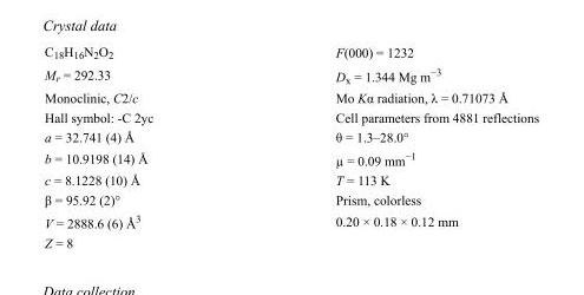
<table><tbody><tr><td>C<sub>18</sub>H<sub>16</sub>N<sub>2</sub>O<sub>2</sub></td><td>F(000) = 1232</td></tr><tr><td>M<sub>r</sub> = 292.33</td><td>D<sub>x</sub> = 1.344 Mg m<sup>−3</sup></td></tr><tr><td>Monoclinic, C2/c</td><td>Mo Kα radiation, λ = 0.71073 Å</td></tr><tr><td>Hall symbol: -C 2yc</td><td>Cell parameters from 4881 reflections</td></tr><tr><td>a = 32.741 (4) Å</td><td>θ = 1.3–28.0°</td></tr><tr><td>b = 10.9198 (14) Å</td><td>µ = 0.09 mm<sup>−1</sup></td></tr><tr><td>c = 8.1228 (10) Å</td><td>T = 113 K</td></tr><tr><td>β = 95.92 (2)°</td><td>Prism, colorless</td></tr><tr><td>V = 2888.6 (6) Å<sup>3</sup></td><td>0.20 × 0.18 × 0.12 mm</td></tr><tr><td>Z = 8</td><td></td></tr></tbody></table>